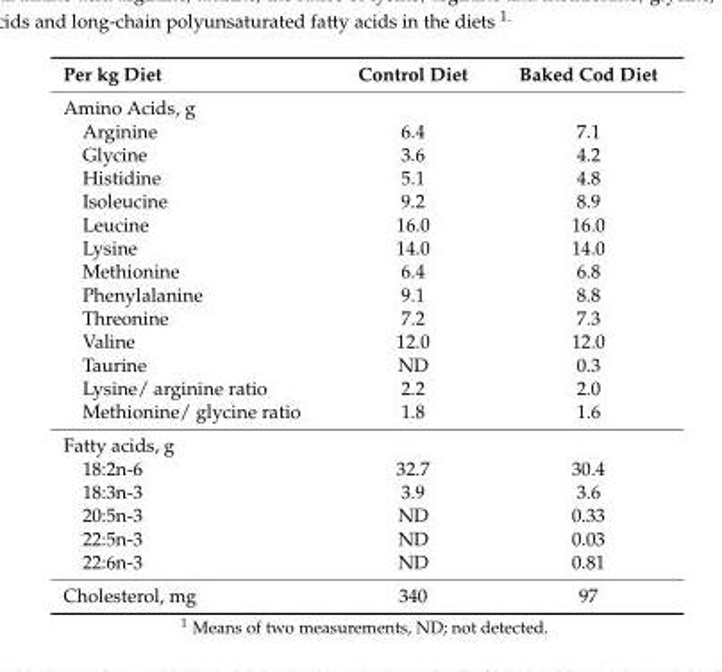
<table><thead><tr><td>Per kg Diet</td><td>Control Diet</td><td>Baked Cod Diet</td></tr></thead><tbody><tr><td colspan="3">Amino Acids, g</td></tr><tr><td>Arginine</td><td>6.4</td><td>7.1</td></tr><tr><td>Glycine</td><td>3.6</td><td>4.2</td></tr><tr><td>Histidine</td><td>5.1</td><td>4.8</td></tr><tr><td>Isoleucine</td><td>9.2</td><td>8.9</td></tr><tr><td>Leucine</td><td>16.0</td><td>16.0</td></tr><tr><td>Lysine</td><td>14.0</td><td>14.0</td></tr><tr><td>Methionine</td><td>6.4</td><td>6.8</td></tr><tr><td>Phenylalanine</td><td>9.1</td><td>8.8</td></tr><tr><td>Threonine</td><td>7.2</td><td>7.3</td></tr><tr><td>Valine</td><td>12.0</td><td>12.0</td></tr><tr><td>Taurine</td><td>ND</td><td>0.3</td></tr><tr><td>Lysine/ arginine ratio</td><td>2.2</td><td>2.0</td></tr><tr><td>Methionine/ glycine ratio</td><td>1.8</td><td>1.6</td></tr><tr><td colspan="3">Fatty acids, g</td></tr><tr><td>18:2n-6</td><td>32.7</td><td>30.4</td></tr><tr><td>18:3n-3</td><td>3.9</td><td>3.6</td></tr><tr><td>20:5n-3</td><td>ND</td><td>0.33</td></tr><tr><td>22:5n-3</td><td>ND</td><td>0.03</td></tr><tr><td>22:6n-3</td><td>ND</td><td>0.81</td></tr><tr><td>Cholesterol, mg</td><td>340</td><td>97</td></tr></tbody></table>